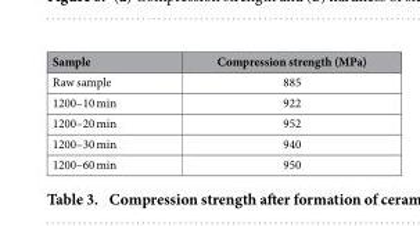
<table><thead><tr><td>Sample</td><td>Compression strength (MPa)</td></tr></thead><tbody><tr><td>Raw sample</td><td>885</td></tr><tr><td>1200–10 min</td><td>922</td></tr><tr><td>1200–20 min</td><td>952</td></tr><tr><td>1200–30 min</td><td>940</td></tr><tr><td>1200–60 min</td><td>950</td></tr></tbody></table>